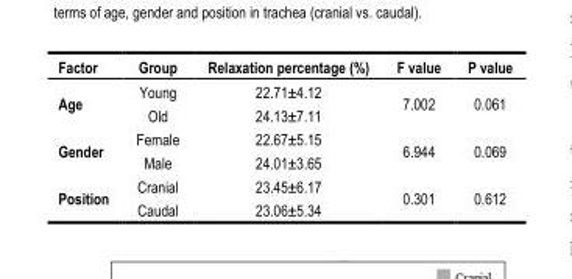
<table><thead><tr><td>Factor</td><td>Group</td><td>Relaxation percentage (%)</td><td>F value</td><td>P value</td></tr></thead><tbody><tr><td rowspan="2">Age</td><td>Young</td><td>22.71±4.12</td><td rowspan="2">7.002</td><td rowspan="2">0.061</td></tr><tr><td>Old</td><td>24.13±7.11</td></tr><tr><td rowspan="2">Gender</td><td>Female</td><td>22.67±5.15</td><td rowspan="2">6.944</td><td rowspan="2">0.069</td></tr><tr><td>Male</td><td>24.01±3.65</td></tr><tr><td rowspan="2">Position</td><td>Cranial</td><td>23.45±6.17</td><td rowspan="2">0.301</td><td rowspan="2">0.612</td></tr><tr><td>Caudal</td><td>23.06±5.34</td></tr></tbody></table>